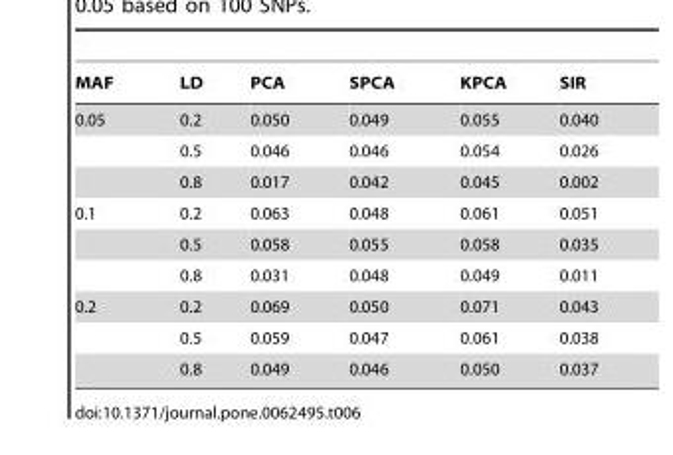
<table><thead><tr><td>MAF</td><td>LD</td><td>PCA</td><td>SPCA</td><td>KPCA</td><td>SIR</td></tr></thead><tbody><tr><td rowspan="3">0.05</td><td>0.2</td><td>0.050</td><td>0.049</td><td>0.055</td><td>0.040</td></tr><tr><td>0.5</td><td>0.046</td><td>0.046</td><td>0.054</td><td>0.026</td></tr><tr><td>0.8</td><td>0.017</td><td>0.042</td><td>0.045</td><td>0.002</td></tr><tr><td rowspan="3">0.1</td><td>0.2</td><td>0.063</td><td>0.048</td><td>0.061</td><td>0.051</td></tr><tr><td>0.5</td><td>0.058</td><td>0.055</td><td>0.058</td><td>0.035</td></tr><tr><td>0.8</td><td>0.031</td><td>0.048</td><td>0.049</td><td>0.011</td></tr><tr><td rowspan="3">0.2</td><td>0.2</td><td>0.069</td><td>0.050</td><td>0.071</td><td>0.043</td></tr><tr><td>0.5</td><td>0.059</td><td>0.047</td><td>0.061</td><td>0.038</td></tr><tr><td>0.8</td><td>0.049</td><td>0.046</td><td>0.050</td><td>0.037</td></tr></tbody></table>